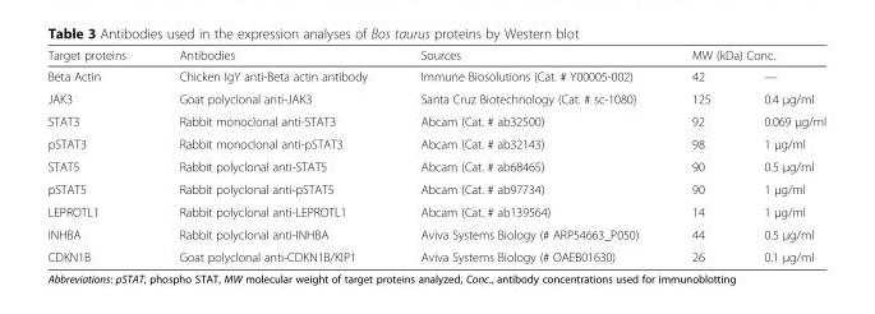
<table><thead><tr><td rowspan="2">Target proteins Beta Actin</td><td rowspan="2">Antibodies Chicken IgY anti-Beta actin antibody</td><td rowspan="2">Sources Immune Biosolutions (Cat. # Y00005-002)</td><td colspan="2">MW (kDa) Conc.</td></tr><tr><td>42</td><td>—</td></tr></thead><tbody><tr><td>JAK3</td><td>Goat polyclonal anti-JAK3</td><td>Santa Cruz Biotechnology (Cat. # sc-1080)</td><td>125</td><td>0.4 μg/ml</td></tr><tr><td>STAT3</td><td>Rabbit monoclonal anti-STAT3</td><td>Abcam (Cat. # ab32500)</td><td>92</td><td>0.069 μg/ml</td></tr><tr><td>pSTAT3</td><td>Rabbit monoclonal anti-pSTAT3</td><td>Abcam (Cat. # ab32143)</td><td>98</td><td>1 μg/ml</td></tr><tr><td>STAT5</td><td>Rabbit polyclonal anti-STAT5</td><td>Abcam (Cat. # ab68465)</td><td>90</td><td>0.5 μg/ml</td></tr><tr><td>pSTAT5</td><td>Rabbit polyclonal anti-pSTAT5</td><td>Abcam (Cat. # ab97734)</td><td>90</td><td>1 μg/ml</td></tr><tr><td>LEPROTL1</td><td>Rabbit polyclonal anti-LEPROTL1</td><td>Abcam (Cat. # ab139564)</td><td>14</td><td>1 μg/ml</td></tr><tr><td>INHBA</td><td>Rabbit polyclonal anti-INHBA</td><td>Aviva Systems Biology (# ARP54663_P050)</td><td>44</td><td>0.5 μg/ml</td></tr><tr><td>CDKN1B</td><td>Goat polyclonal anti-CDKN1B/KIP1</td><td>Aviva Systems Biology (# OAEB01630)</td><td>26</td><td>0.1 μg/ml</td></tr></tbody></table>